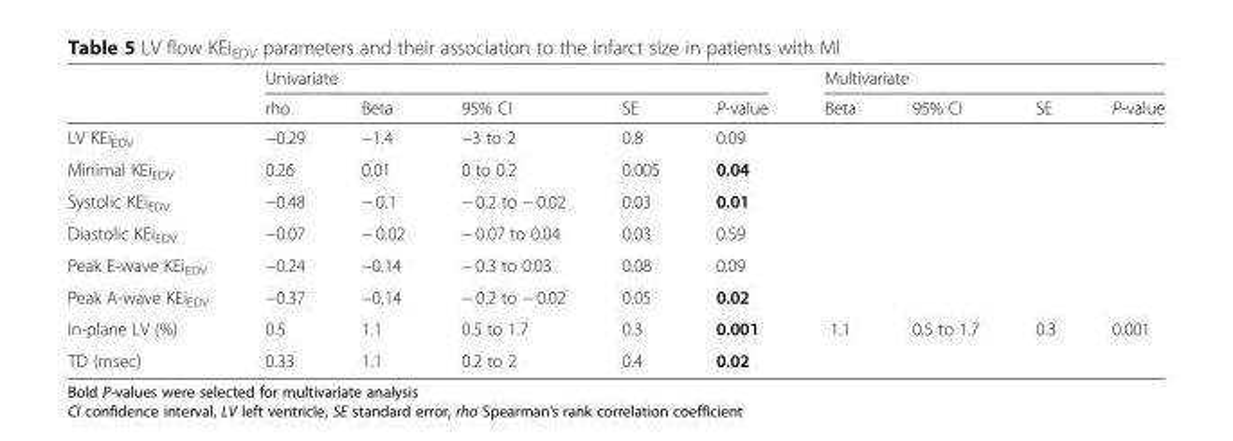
<table><thead><tr><td rowspan="2"></td><td colspan="5">Univariate</td><td colspan="4">Multivariate</td></tr><tr><td>rho</td><td>Beta</td><td>95% CI</td><td>SE</td><td>P-value</td><td>Beta</td><td>95% CI</td><td>SE</td><td>P-value</td></tr></thead><tbody><tr><td>LV KEi<sub>EDV</sub></td><td>−0.29</td><td>−1.4</td><td>−3 to 2</td><td>0.8</td><td>0.09</td><td colspan="4"></td></tr><tr><td>Minimal KEi<sub>EDV</sub></td><td>0.26</td><td>0.01</td><td>0 to 0.2</td><td>0.005</td><td>0.04</td><td colspan="4"></td></tr><tr><td>Systolic KEi<sub>EDV</sub></td><td>−0.48</td><td>− 0.1</td><td>− 0.2 to − 0.02</td><td>0.03</td><td>0.01</td><td colspan="4"></td></tr><tr><td>Diastolic KEi<sub>EDV</sub></td><td>−0.07</td><td>− 0.02</td><td>− 0.07 to 0.04</td><td>0.03</td><td>0.59</td><td colspan="4"></td></tr><tr><td>Peak E-wave KEi<sub>EDV</sub></td><td>−0.24</td><td>−0.14</td><td>− 0.3 to 0.03</td><td>0.08</td><td>0.09</td><td colspan="4"></td></tr><tr><td>Peak A-wave KEi<sub>EDV</sub></td><td>−0.37</td><td>−0.14</td><td>− 0.2 to − 0.02</td><td>0.05</td><td>0.02</td><td colspan="4"></td></tr><tr><td>In-plane LV (%)</td><td>0.5</td><td>1.1</td><td>0.5 to 1.7</td><td>0.3</td><td>0.001</td><td>1.1</td><td>0.5 to 1.7</td><td>0.3</td><td>0.001</td></tr><tr><td>TD (msec)</td><td>0.33</td><td>1.1</td><td>0.2 to 2</td><td>0.4</td><td>0.02</td><td colspan="4"></td></tr></tbody></table>